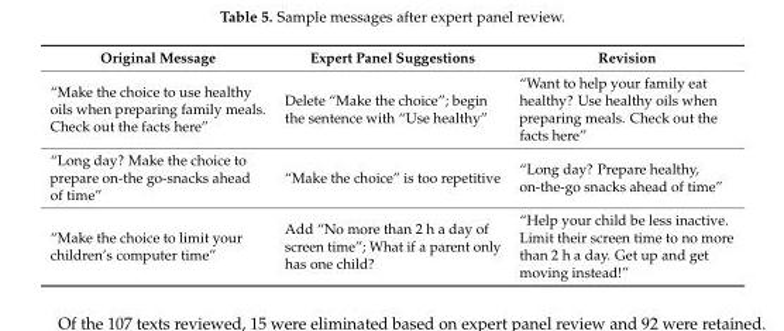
<table><thead><tr><td>Original Message</td><td>Expert Panel Suggestions</td><td>Revision</td></tr></thead><tbody><tr><td>“Make the choice to use healthy oils when preparing family meals. Check out the facts here”</td><td>Delete “Make the choice”; begin the sentence with “Use healthy”</td><td>“Want to help your family eat healthy? Use healthy oils when preparing meals. Check out the facts here”</td></tr><tr><td>“Long day? Make the choice to prepare on-the go-snacks ahead of time”</td><td>“Make the choice” is too repetitive</td><td>“Long day? Prepare healthy, on-the-go snacks ahead of time”</td></tr><tr><td>“Make the choice to limit your children’s computer time”</td><td>Add “No more than 2 h a day of screen time”; What if a parent only has one child?</td><td>“Help your child be less inactive. Limit their screen time to no more than 2 h a day. Get up and get moving instead!”</td></tr></tbody></table>